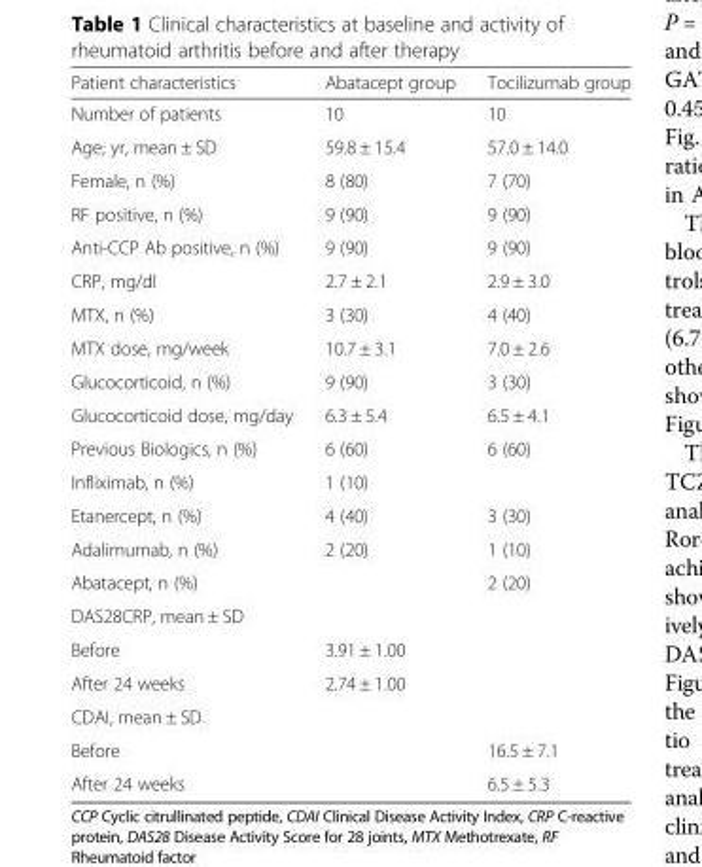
<table><thead><tr><td>Patient characteristics</td><td>Abatacept group</td><td>Tocilizumab group</td></tr></thead><tbody><tr><td>Number of patients</td><td>10</td><td>10</td></tr><tr><td>Age; yr, mean ± SD</td><td>59.8 ± 15.4</td><td>57.0 ± 14.0</td></tr><tr><td>Female, n (%)</td><td>8 (80)</td><td>7 (70)</td></tr><tr><td>RF positive, n (%)</td><td>9 (90)</td><td>9 (90)</td></tr><tr><td>Anti-CCP Ab positive, n (%)</td><td>9 (90)</td><td>9 (90)</td></tr><tr><td>CRP, mg/dl</td><td>2.7 ± 2.1</td><td>2.9 ± 3.0</td></tr><tr><td>MTX, n (%)</td><td>3 (30)</td><td>4 (40)</td></tr><tr><td>MTX dose, mg/week</td><td>10.7 ± 3.1</td><td>7.0 ± 2.6</td></tr><tr><td>Glucocorticoid, n (%)</td><td>9 (90)</td><td>3 (30)</td></tr><tr><td>Glucocorticoid dose, mg/day</td><td>6.3 ± 5.4</td><td>6.5 ± 4.1</td></tr><tr><td>Previous Biologics, n (%)</td><td>6 (60)</td><td>6 (60)</td></tr><tr><td>Infliximab, n (%)</td><td>1 (10)</td><td></td></tr><tr><td>Etanercept, n (%)</td><td>4 (40)</td><td>3 (30)</td></tr><tr><td>Adalimumab, n (%)</td><td>2 (20)</td><td>1 (10)</td></tr><tr><td>Abatacept, n (%)</td><td></td><td>2 (20)</td></tr><tr><td colspan="3">DAS28CRP, mean ± SD</td></tr><tr><td>Before</td><td>3.91 ± 1.00</td><td></td></tr><tr><td>After 24 weeks</td><td>2.74 ± 1.00</td><td></td></tr><tr><td colspan="3">CDAI, mean ± SD</td></tr><tr><td>Before</td><td></td><td>16.5 ± 7.1</td></tr><tr><td>After 24 weeks</td><td></td><td>6.5 ± 5.3</td></tr></tbody></table>